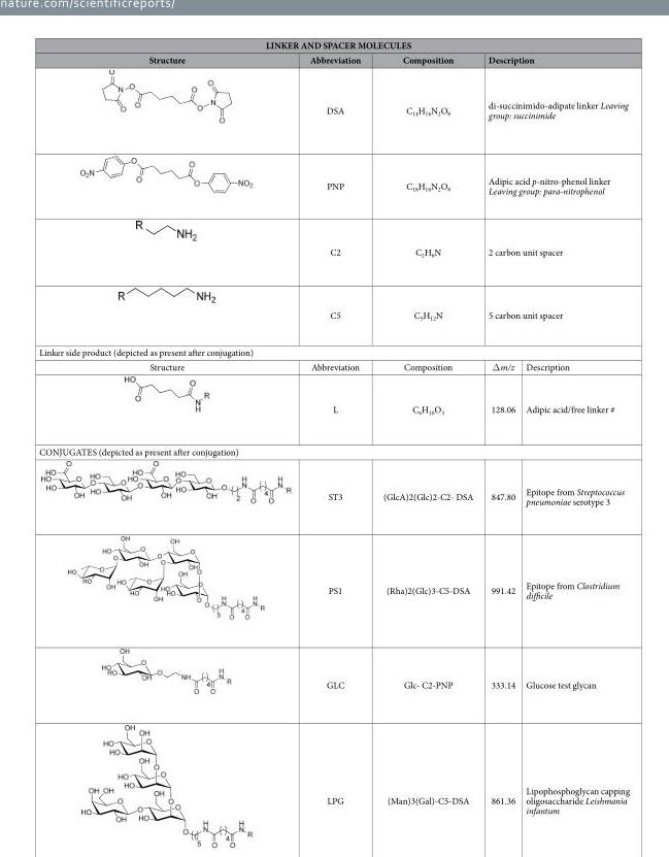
<table><thead><tr><td colspan="5">LINKER AND SPACER MOLECULES</td></tr><tr><td>Structure</td><td>Abbreviation</td><td>Composition</td><td colspan="2">Description</td></tr></thead><tbody><tr><td></td><td>DSA</td><td>C<sub>14</sub>H<sub>16</sub>N<sub>2</sub>O<sub>8</sub></td><td colspan="2">di-succinimido-adipate linker Leaving group: succinimide</td></tr><tr><td></td><td>PNP</td><td>C<sub>18</sub>H<sub>16</sub>N<sub>2</sub>O<sub>8</sub></td><td colspan="2">Adipic acid p-nitro-phenol linker Leaving group: para-nitrophenol</td></tr><tr><td></td><td>C2</td><td>C<sub>2</sub>H<sub>6</sub>N</td><td colspan="2">2 carbon unit spacer</td></tr><tr><td></td><td>C5</td><td>C<sub>5</sub>H<sub>12</sub>N</td><td colspan="2">5 carbon unit spacer</td></tr><tr><td colspan="5">Linker side product (depicted as present after conjugation)</td></tr><tr><td rowspan="2">Structure</td><td>Abbreviation</td><td>Composition</td><td>Δ m/z</td><td>Description</td></tr><tr><td>L</td><td>C<sub>6</sub>H<sub>10</sub>O<sub>3</sub></td><td>128.06</td><td>Adipic acid/free linker #</td></tr><tr><td colspan="5">CONJUGATES (depicted as present after conjugation)</td></tr><tr><td></td><td>ST3</td><td>(GlcA)2(Glc)2-C2- DSA</td><td>847.80</td><td>Epitope from Streptococcus pneumoniae serotype 3</td></tr><tr><td></td><td>PS1</td><td>(Rha)2(Glc)3-C5-DSA</td><td>991.42</td><td>Epitope from Clostridium difficile</td></tr><tr><td></td><td>GLC</td><td>Glc- C2-PNP</td><td>333.14</td><td>Glucose test glycan</td></tr><tr><td></td><td>LPG</td><td>(Man)3(Gal)-C5-DSA</td><td>861.36</td><td>Lipophosphoglycan capping oligosaccharide Leishmania infantum</td></tr></tbody></table>